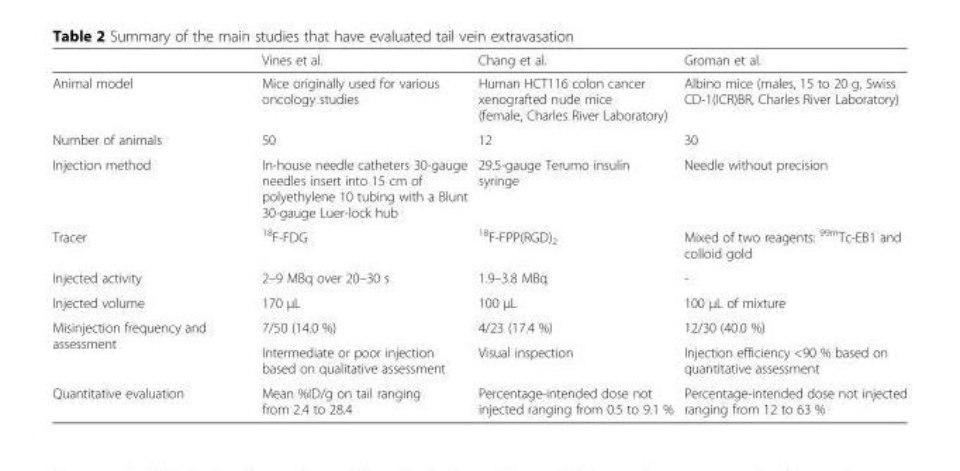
<table><thead><tr><td></td><td>Vines et al.</td><td>Chang et al.</td><td>Groman et al.</td></tr></thead><tbody><tr><td>Animal model</td><td>Mice originally used for various oncology studies</td><td>Human HCT116 colon cancer xenografted nude mice (female, Charles River Laboratory)</td><td>Albino mice (males, 15 to 20 g, Swiss CD-1(ICR)BR, Charles River Laboratory)</td></tr><tr><td>Number of animals</td><td>50</td><td>12</td><td>30</td></tr><tr><td>Injection method</td><td>In-house needle catheters 30-gauge needles insert into 15 cm of polyethylene 10 tubing with a Blunt 30-gauge Luer-lock hub</td><td>29.5-gauge Terumo insulin syringe</td><td>Needle without precision</td></tr><tr><td>Tracer</td><td><sup>18</sup>F-FDG</td><td><sup>18</sup>F-FPP(RGD)<sub>2</sub></td><td>Mixed of two reagents: <sup>99m</sup>Tc-EB1 and colloid gold</td></tr><tr><td>Injected activity</td><td>2–9 MBq over 20–30 s</td><td>1.9–3.8 MBq</td><td>-</td></tr><tr><td>Injected volume</td><td>170 μL</td><td>100 μL</td><td>100 μL of mixture</td></tr><tr><td rowspan="2">Misinjection frequency and assessment</td><td>7/50 (14.0 %)</td><td>4/23 (17.4 %)</td><td>12/30 (40.0 %)</td></tr><tr><td>Intermediate or poor injection based on qualitative assessment</td><td>Visual inspection</td><td>Injection efficiency &lt;90 % based on quantitative assessment</td></tr><tr><td>Quantitative evaluation</td><td>Mean %ID/g on tail ranging from 2.4 to 28.4</td><td>Percentage-intended dose not injected ranging from 0.5 to 9.1 %</td><td>Percentage-intended dose not injected ranging from 12 to 63 %</td></tr></tbody></table>